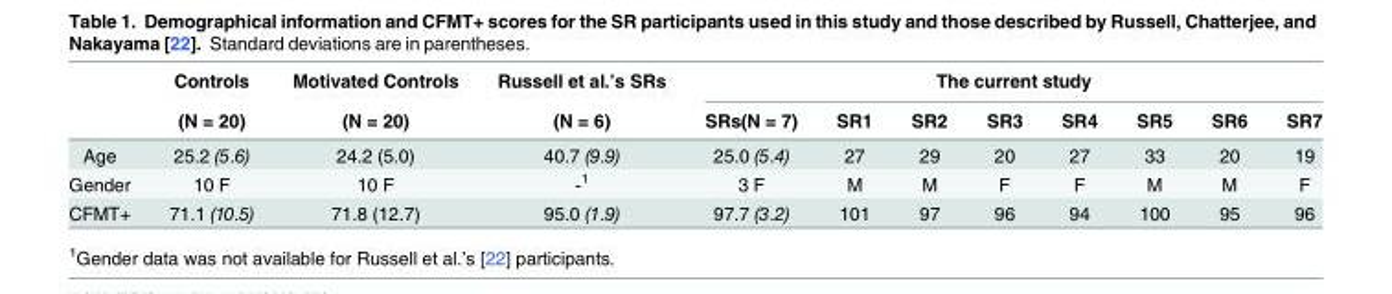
<table><thead><tr><td rowspan="2"></td><td rowspan="2">Controls (N = 20)</td><td rowspan="2">Motivated Controls (N = 20)</td><td rowspan="2">Russell et al.’s SRs (N = 6)</td><td colspan="8">The current study</td></tr><tr><td>SRs(N = 7)</td><td>SR1</td><td>SR2</td><td>SR3</td><td>SR4</td><td>SR5</td><td>SR6</td><td>SR7</td></tr></thead><tbody><tr><td>Age</td><td>25.2 (5.6)</td><td>24.2 (5.0)</td><td>40.7 (9.9)</td><td>25.0 (5.4)</td><td>27</td><td>29</td><td>20</td><td>27</td><td>33</td><td>20</td><td>19</td></tr><tr><td>Gender</td><td>10 F</td><td>10 F</td><td>-<sup>1</sup></td><td>3 F</td><td>M</td><td>M</td><td>F</td><td>F</td><td>M</td><td>M</td><td>F</td></tr><tr><td>CFMT+</td><td>71.1 (10.5)</td><td>71.8 (12.7)</td><td>95.0 (1.9)</td><td>97.7 (3.2)</td><td>101</td><td>97</td><td>96</td><td>94</td><td>100</td><td>95</td><td>96</td></tr></tbody></table>